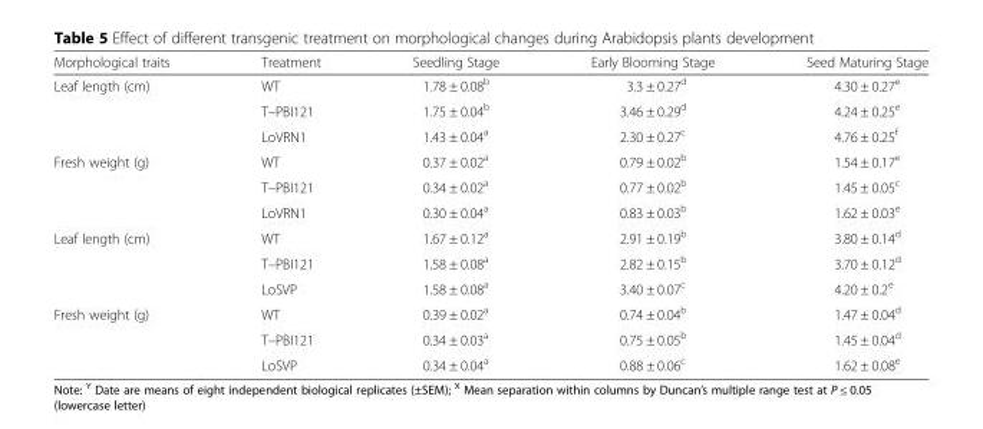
<table><thead><tr><td>Morphological traits</td><td>Treatment</td><td>Seedling Stage</td><td>Early Blooming Stage</td><td>Seed Maturing Stage</td></tr></thead><tbody><tr><td rowspan="3">Leaf length (cm)</td><td>WT</td><td>1.78 ± 0.08<sup>b</sup></td><td>3.3 ± 0.27<sup>d</sup></td><td>4.30 ± 0.27<sup>e</sup></td></tr><tr><td>T–PBI121</td><td>1.75 ± 0.04<sup>b</sup></td><td>3.46 ± 0.29<sup>d</sup></td><td>4.24 ± 0.25<sup>e</sup></td></tr><tr><td>LoVRN1</td><td>1.43 ± 0.04<sup>a</sup></td><td>2.30 ± 0.27<sup>c</sup></td><td>4.76 ± 0.25<sup>f</sup></td></tr><tr><td rowspan="3">Fresh weight (g)</td><td>WT</td><td>0.37 ± 0.02<sup>a</sup></td><td>0.79 ± 0.02<sup>b</sup></td><td>1.54 ± 0.17<sup>e</sup></td></tr><tr><td>T–PBI121</td><td>0.34 ± 0.02<sup>a</sup></td><td>0.77 ± 0.02<sup>b</sup></td><td>1.45 ± 0.05<sup>c</sup></td></tr><tr><td>LoVRN1</td><td>0.30 ± 0.04<sup>a</sup></td><td>0.83 ± 0.03<sup>b</sup></td><td>1.62 ± 0.03<sup>e</sup></td></tr><tr><td rowspan="3">Leaf length (cm)</td><td>WT</td><td>1.67 ± 0.12<sup>a</sup></td><td>2.91 ± 0.19<sup>b</sup></td><td>3.80 ± 0.14<sup>d</sup></td></tr><tr><td>T–PBI121</td><td>1.58 ± 0.08<sup>a</sup></td><td>2.82 ± 0.15<sup>b</sup></td><td>3.70 ± 0.12<sup>d</sup></td></tr><tr><td>LoSVP</td><td>1.58 ± 0.08<sup>a</sup></td><td>3.40 ± 0.07<sup>c</sup></td><td>4.20 ± 0.2<sup>e</sup></td></tr><tr><td rowspan="3">Fresh weight (g)</td><td>WT</td><td>0.39 ± 0.02<sup>a</sup></td><td>0.74 ± 0.04<sup>b</sup></td><td>1.47 ± 0.04<sup>d</sup></td></tr><tr><td>T–PBI121</td><td>0.34 ± 0.03<sup>a</sup></td><td>0.75 ± 0.05<sup>b</sup></td><td>1.45 ± 0.04<sup>d</sup></td></tr><tr><td>LoSVP</td><td>0.34 ± 0.04<sup>a</sup></td><td>0.88 ± 0.06<sup>c</sup></td><td>1.62 ± 0.08<sup>e</sup></td></tr></tbody></table>